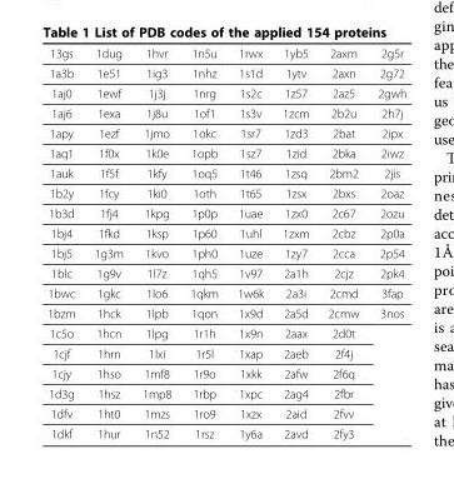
<table><tbody><tr><td>13gs</td><td>1dug</td><td>1hvr</td><td>1n5u</td><td>1rwx</td><td>1yb5</td><td>2axm</td><td>2g5r</td></tr><tr><td>1a3b</td><td>1e51</td><td>1ig3</td><td>1nhz</td><td>1s1d</td><td>1ytv</td><td>2axn</td><td>2g72</td></tr><tr><td>1aj0</td><td>1ewf</td><td>1j3j</td><td>1nrg</td><td>1s2c</td><td>1z57</td><td>2az5</td><td>2gwh</td></tr><tr><td>1aj6</td><td>1exa</td><td>1j8u</td><td>1of1</td><td>1s3v</td><td>1zcm</td><td>2b2u</td><td>2h7j</td></tr><tr><td>1apy</td><td>1ezf</td><td>1jmo</td><td>1okc</td><td>1sr7</td><td>1zd3</td><td>2bat</td><td>2ipx</td></tr><tr><td>1aq1</td><td>1f0x</td><td>1k0e</td><td>1opb</td><td>1sz7</td><td>1zid</td><td>2bka</td><td>2iwz</td></tr><tr><td>1auk</td><td>1f5f</td><td>1kfy</td><td>1oq5</td><td>1t46</td><td>1zsq</td><td>2bm2</td><td>2jis</td></tr><tr><td>1b2y</td><td>1fcy</td><td>1ki0</td><td>1oth</td><td>1t65</td><td>1zsx</td><td>2bxs</td><td>2oaz</td></tr><tr><td>1b3d</td><td>1fj4</td><td>1kpg</td><td>1p0p</td><td>1uae</td><td>1zx0</td><td>2c67</td><td>2ozu</td></tr><tr><td>1bj4</td><td>1fkd</td><td>1ksp</td><td>1p60</td><td>1uhl</td><td>1zxm</td><td>2cbz</td><td>2p0a</td></tr><tr><td>1bj5</td><td>1g3m</td><td>1kvo</td><td>1ph0</td><td>1uze</td><td>1zy7</td><td>2cca</td><td>2p54</td></tr><tr><td>1blc</td><td>1g9v</td><td>1l7z</td><td>1qh5</td><td>1v97</td><td>2a1h</td><td>2cjz</td><td>2pk4</td></tr><tr><td>1bwc</td><td>1gkc</td><td>1lo6</td><td>1qkm</td><td>1w6k</td><td>2a3i</td><td>2cmd</td><td>3fap</td></tr><tr><td>1bzm</td><td>1hck</td><td>1lpb</td><td>1qon</td><td>1x9d</td><td>2a5d</td><td>2cmw</td><td>3nos</td></tr><tr><td>1c5o</td><td>1hcn</td><td>1lpg</td><td>1r1h</td><td>1x9n</td><td>2aax</td><td>2d0t</td><td rowspan="6"></td></tr><tr><td>1cjf</td><td>1hrn</td><td>1lxi</td><td>1r5l</td><td>1xap</td><td>2aeb</td><td>2f4j</td></tr><tr><td>1cjy</td><td>1hso</td><td>1mf8</td><td>1r9o</td><td>1xkk</td><td>2afw</td><td>2f6q</td></tr><tr><td>1d3g</td><td>1hsz</td><td>1mp8</td><td>1rbp</td><td>1xpc</td><td>2ag4</td><td>2fbr</td></tr><tr><td>1dfv</td><td>1ht0</td><td>1mzs</td><td>1ro9</td><td>1xzx</td><td>2aid</td><td>2fvv</td></tr><tr><td>1dkf</td><td>1hur</td><td>1n52</td><td>1rsz</td><td>1y6a</td><td>2avd</td><td>2fy3</td></tr></tbody></table>